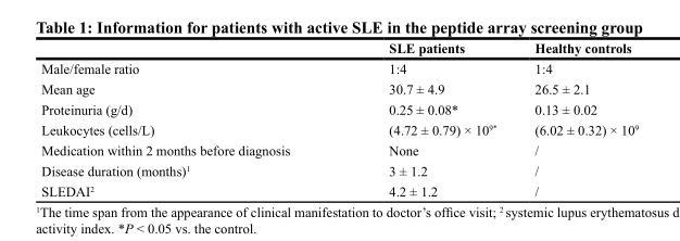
<table><thead><tr><td></td><td>SLE patients</td><td>Healthy controls</td></tr></thead><tbody><tr><td>Male/female ratio</td><td>1:4</td><td>1:4</td></tr><tr><td>Mean age</td><td>30.7 ± 4.9</td><td>26.5 ± 2.1</td></tr><tr><td>Proteinuria (g/d)</td><td>0.25 ± 0.08*</td><td>0.13 ± 0.02</td></tr><tr><td>Leukocytes (cells/L)</td><td>(4.72 ± 0.79) × 10<sup>9*</sup></td><td>(6.02 ± 0.32) × 10<sup>9</sup></td></tr><tr><td>Medication within 2 months before diagnosis</td><td>None</td><td>/</td></tr><tr><td>Disease duration (months)<sup>1</sup></td><td>3 ± 1.2</td><td>/</td></tr><tr><td>SLEDAI<sup>2</sup></td><td>4.2 ± 1.2</td><td>/</td></tr></tbody></table>